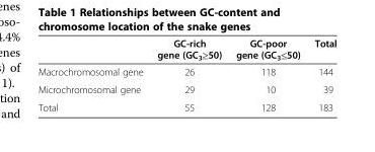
<table><thead><tr><td></td><td>GC-rich gene (GC<sub>3</sub>≥50)</td><td>GC-poor gene (GC<sub>3</sub>≤50)</td><td>Total</td></tr></thead><tbody><tr><td>Macrochromosomal gene</td><td>26</td><td>118</td><td>144</td></tr><tr><td>Microchromosomal gene</td><td>29</td><td>10</td><td>39</td></tr><tr><td>Total</td><td>55</td><td>128</td><td>183</td></tr></tbody></table>